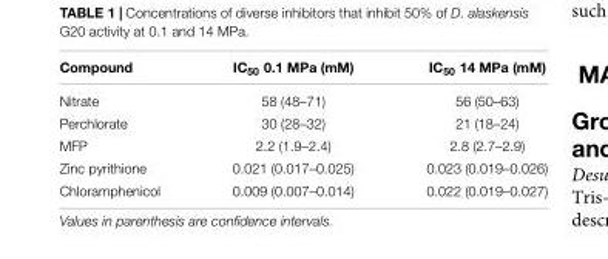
<table><thead><tr><td>Compound</td><td>IC<sub>50</sub> 0.1 MPa (mM)</td><td>IC<sub>50</sub> 14 MPa (mM)</td></tr></thead><tbody><tr><td>Nitrate</td><td>58 (48–71)</td><td>56 (50–63)</td></tr><tr><td>Perchlorate</td><td>30 (28–32)</td><td>21 (18–24)</td></tr><tr><td>MFP</td><td>2.2 (1.9–2.4)</td><td>2.8 (2.7–2.9)</td></tr><tr><td>Zinc pyrithione</td><td>0.021 (0.017–0.025)</td><td>0.023 (0.019–0.026)</td></tr><tr><td>Chloramphenicol</td><td>0.009 (0.007–0.014)</td><td>0.022 (0.019–0.027)</td></tr></tbody></table>